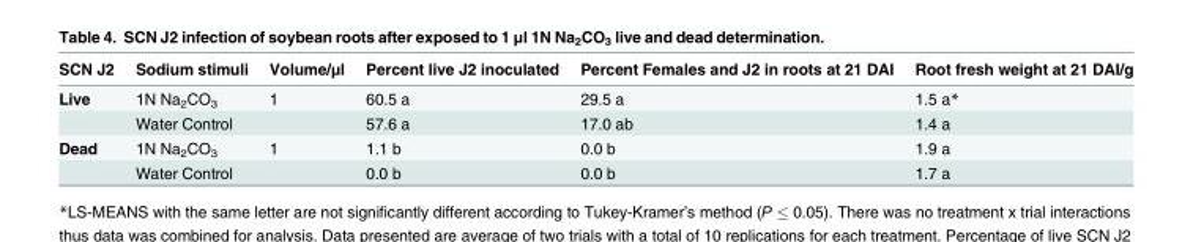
<table><thead><tr><td>SCN J2</td><td>Sodium stimuli</td><td>Volume/μl</td><td>Percent live J2 inoculated</td><td>Percent Females and J2 in roots at 21 DAI</td><td>Root fresh weight at 21 DAI/g</td></tr></thead><tbody><tr><td rowspan="2">Live</td><td>1N Na<sub>2</sub>CO<sub>3</sub></td><td>1</td><td>60.5 a</td><td>29.5 a</td><td>1.5 a*</td></tr><tr><td>Water Control</td><td></td><td>57.6 a</td><td>17.0 ab</td><td>1.4 a</td></tr><tr><td rowspan="2">Dead</td><td>1N Na<sub>2</sub>CO<sub>3</sub></td><td>1</td><td>1.1 b</td><td>0.0 b</td><td>1.9 a</td></tr><tr><td>Water Control</td><td></td><td>0.0 b</td><td>0.0 b</td><td>1.7 a</td></tr></tbody></table>